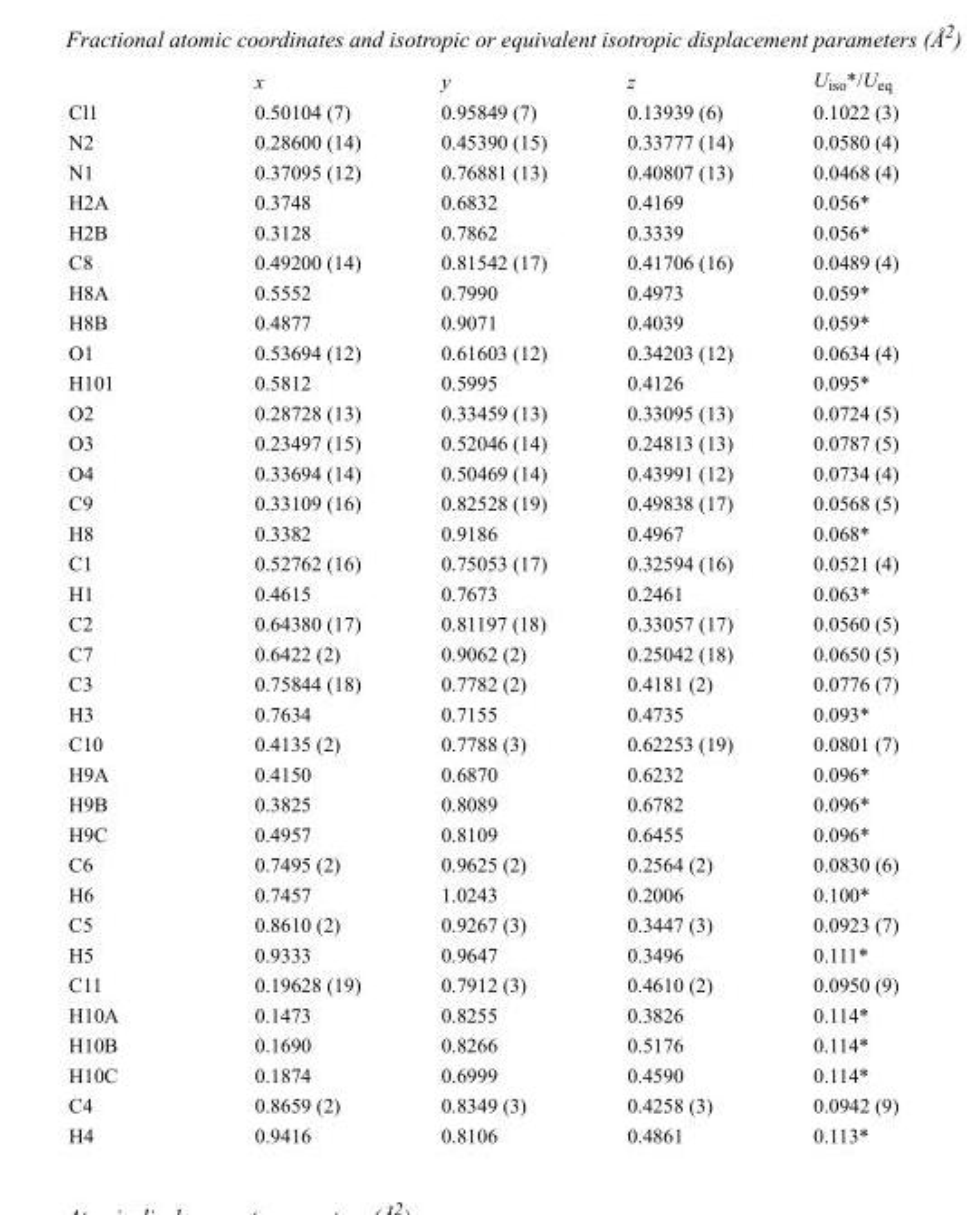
<table><thead><tr><td></td><td>x</td><td>y</td><td>z</td><td>U<sub>iso</sub>*/U<sub>eq</sub></td></tr></thead><tbody><tr><td>Cl1</td><td>0.50104 (7)</td><td>0.95849 (7)</td><td>0.13939 (6)</td><td>0.1022 (3)</td></tr><tr><td>N2</td><td>0.28600 (14)</td><td>0.45390 (15)</td><td>0.33777 (14)</td><td>0.0580 (4)</td></tr><tr><td>N1</td><td>0.37095 (12)</td><td>0.76881 (13)</td><td>0.40807 (13)</td><td>0.0468 (4)</td></tr><tr><td>H2A</td><td>0.3748</td><td>0.6832</td><td>0.4169</td><td>0.056*</td></tr><tr><td>H2B</td><td>0.3128</td><td>0.7862</td><td>0.3339</td><td>0.056*</td></tr><tr><td>C8</td><td>0.49200 (14)</td><td>0.81542 (17)</td><td>0.41706 (16)</td><td>0.0489 (4)</td></tr><tr><td>H8A</td><td>0.5552</td><td>0.7990</td><td>0.4973</td><td>0.059*</td></tr><tr><td>H8B</td><td>0.4877</td><td>0.9071</td><td>0.4039</td><td>0.059*</td></tr><tr><td>O1</td><td>0.53694 (12)</td><td>0.61603 (12)</td><td>0.34203 (12)</td><td>0.0634 (4)</td></tr><tr><td>H101</td><td>0.5812</td><td>0.5995</td><td>0.4126</td><td>0.095*</td></tr><tr><td>O2</td><td>0.28728 (13)</td><td>0.33459 (13)</td><td>0.33095 (13)</td><td>0.0724 (5)</td></tr><tr><td>O3</td><td>0.23497 (15)</td><td>0.52046 (14)</td><td>0.24813 (13)</td><td>0.0787 (5)</td></tr><tr><td>O4</td><td>0.33694 (14)</td><td>0.50469 (14)</td><td>0.43991 (12)</td><td>0.0734 (4)</td></tr><tr><td>C9</td><td>0.33109 (16)</td><td>0.82528 (19)</td><td>0.49838 (17)</td><td>0.0568 (5)</td></tr><tr><td>H8</td><td>0.3382</td><td>0.9186</td><td>0.4967</td><td>0.068*</td></tr><tr><td>C1</td><td>0.52762 (16)</td><td>0.75053 (17)</td><td>0.32594 (16)</td><td>0.0521 (4)</td></tr><tr><td>H1</td><td>0.4615</td><td>0.7673</td><td>0.2461</td><td>0.063*</td></tr><tr><td>C2</td><td>0.64380 (17)</td><td>0.81197 (18)</td><td>0.33057 (17)</td><td>0.0560 (5)</td></tr><tr><td>C7</td><td>0.6422 (2)</td><td>0.9062 (2)</td><td>0.25042 (18)</td><td>0.0650 (5)</td></tr><tr><td>C3</td><td>0.75844 (18)</td><td>0.7782 (2)</td><td>0.4181 (2)</td><td>0.0776 (7)</td></tr><tr><td>H3</td><td>0.7634</td><td>0.7155</td><td>0.4735</td><td>0.093*</td></tr><tr><td>C10</td><td>0.4135 (2)</td><td>0.7788 (3)</td><td>0.62253 (19)</td><td>0.0801 (7)</td></tr><tr><td>H9A</td><td>0.4150</td><td>0.6870</td><td>0.6232</td><td>0.096*</td></tr><tr><td>H9B</td><td>0.3825</td><td>0.8089</td><td>0.6782</td><td>0.096*</td></tr><tr><td>H9C</td><td>0.4957</td><td>0.8109</td><td>0.6455</td><td>0.096*</td></tr><tr><td>C6</td><td>0.7495 (2)</td><td>0.9625 (2)</td><td>0.2564 (2)</td><td>0.0830 (6)</td></tr><tr><td>H6</td><td>0.7457</td><td>1.0243</td><td>0.2006</td><td>0.100*</td></tr><tr><td>C5</td><td>0.8610 (2)</td><td>0.9267 (3)</td><td>0.3447 (3)</td><td>0.0923 (7)</td></tr><tr><td>H5</td><td>0.9333</td><td>0.9647</td><td>0.3496</td><td>0.111*</td></tr><tr><td>C11</td><td>0.19628 (19)</td><td>0.7912 (3)</td><td>0.4610 (2)</td><td>0.0950 (9)</td></tr><tr><td>H10A</td><td>0.1473</td><td>0.8255</td><td>0.3826</td><td>0.114*</td></tr><tr><td>H10B</td><td>0.1690</td><td>0.8266</td><td>0.5176</td><td>0.114*</td></tr><tr><td>H10C</td><td>0.1874</td><td>0.6999</td><td>0.4590</td><td>0.114*</td></tr><tr><td>C4</td><td>0.8659 (2)</td><td>0.8349 (3)</td><td>0.4258 (3)</td><td>0.0942 (9)</td></tr><tr><td>H4</td><td>0.9416</td><td>0.8106</td><td>0.4861</td><td>0.113*</td></tr></tbody></table>